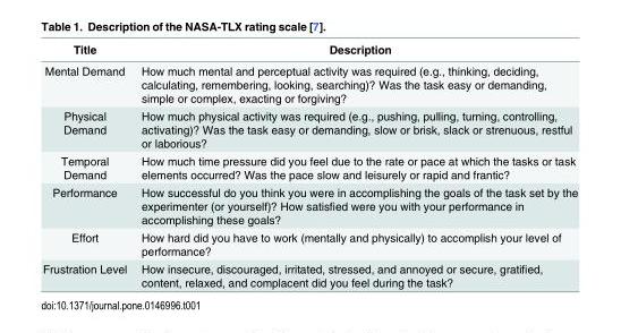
<table><thead><tr><td>Title</td><td>Description</td></tr></thead><tbody><tr><td>Mental Demand</td><td>How much mental and perceptual activity was required (e.g., thinking, deciding, calculating, remembering, looking, searching)? Was the task easy or demanding, simple or complex, exacting or forgiving?</td></tr><tr><td>Physical Demand</td><td>How much physical activity was required (e.g., pushing, pulling, turning, controlling, activating)? Was the task easy or demanding, slow or brisk, slack or strenuous, restful or laborious?</td></tr><tr><td>Temporal Demand</td><td>How much time pressure did you feel due to the rate or pace at which the tasks or task elements occurred? Was the pace slow and leisurely or rapid and frantic?</td></tr><tr><td>Performance</td><td>How successful do you think you were in accomplishing the goals of the task set by the experimenter (or yourself)? How satisfied were you with your performance in accomplishing these goals?</td></tr><tr><td>Effort</td><td>How hard did you have to work (mentally and physically) to accomplish your level of performance?</td></tr><tr><td>Frustration Level</td><td>How insecure, discouraged, irritated, stressed, and annoyed or secure, gratified, content, relaxed, and complacent did you feel during the task?</td></tr></tbody></table>